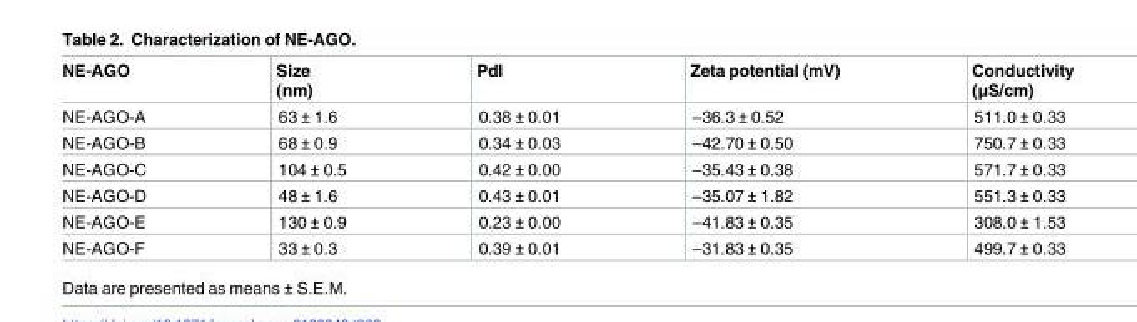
<table><thead><tr><td>NE-AGO</td><td>Size (nm)</td><td>PdI</td><td>Zeta potential (mV)</td><td>Conductivity (μS/cm)</td></tr></thead><tbody><tr><td>NE-AGO-A</td><td>63 ± 1.6</td><td>0.38 ± 0.01</td><td>–36.3 ± 0.52</td><td>511.0 ± 0.33</td></tr><tr><td>NE-AGO-B</td><td>68 ± 0.9</td><td>0.34 ± 0.03</td><td>–42.70 ± 0.50</td><td>750.7 ± 0.33</td></tr><tr><td>NE-AGO-C</td><td>104 ± 0.5</td><td>0.42 ± 0.00</td><td>–35.43 ± 0.38</td><td>571.7 ± 0.33</td></tr><tr><td>NE-AGO-D</td><td>48 ± 1.6</td><td>0.43 ± 0.01</td><td>–35.07 ± 1.82</td><td>551.3 ± 0.33</td></tr><tr><td>NE-AGO-E</td><td>130 ± 0.9</td><td>0.23 ± 0.00</td><td>–41.83 ± 0.35</td><td>308.0 ± 1.53</td></tr><tr><td>NE-AGO-F</td><td>33 ± 0.3</td><td>0.39 ± 0.01</td><td>–31.83 ± 0.35</td><td>499.7 ± 0.33</td></tr></tbody></table>